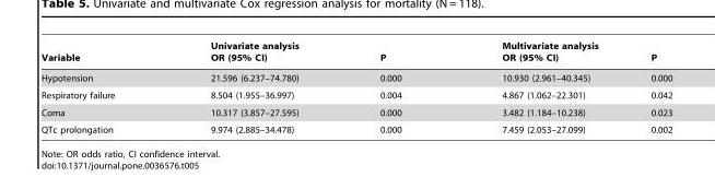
<table><thead><tr><td>Variable</td><td>Univariate analysis OR (95% CI)</td><td>P</td><td>Multivariate analysis OR (95% CI)</td><td>P</td></tr></thead><tbody><tr><td>Hypotension</td><td>21.596 (6.237–74.780)</td><td>0.000</td><td>10.930 (2.961–40.345)</td><td>0.000</td></tr><tr><td>Respiratory failure</td><td>8.504 (1.955–36.997)</td><td>0.004</td><td>4.867 (1.062–22.301)</td><td>0.042</td></tr><tr><td>Coma</td><td>10.317 (3.857–27.595)</td><td>0.000</td><td>3.482 (1.184–10.238)</td><td>0.023</td></tr><tr><td>QTc prolongation</td><td>9.974 (2.885–34.478)</td><td>0.000</td><td>7.459 (2.053–27.099)</td><td>0.002</td></tr></tbody></table>